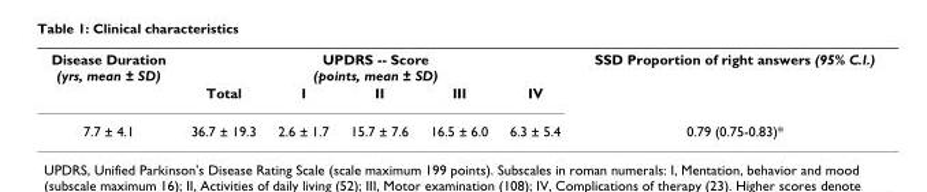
<table><tbody><tr><td rowspan="2">Disease Duration (yrs, mean ± SD)</td><td colspan="5">UPDRS -- Score (points, mean ± SD)</td><td>SSD Proportion of right answers (95% C.I.)</td></tr><tr><td>Total</td><td>I</td><td>II</td><td>III</td><td>IV</td><td></td></tr><tr><td>7.7 ± 4.1</td><td>36.7 ± 19.3</td><td>2.6 ± 1.7</td><td>15.7 ± 7.6</td><td>16.5 ± 6.0</td><td>6.3 ± 5.4</td><td>0.79 (0.75-0.83)*</td></tr></tbody></table>